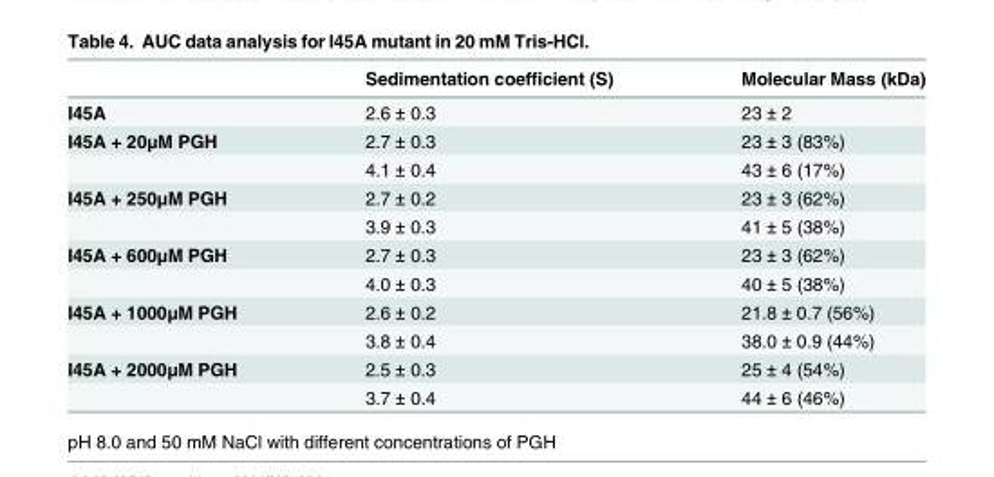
<table><thead><tr><td></td><td>Sedimentation coefficient (S)</td><td>Molecular Mass (kDa)</td></tr></thead><tbody><tr><td>I45A</td><td>2.6 ± 0.3</td><td>23 ± 2</td></tr><tr><td rowspan="2">I45A + 20μM PGH</td><td>2.7 ± 0.3</td><td>23 ± 3 (83%)</td></tr><tr><td>4.1 ± 0.4</td><td>43 ± 6 (17%)</td></tr><tr><td rowspan="2">I45A + 250μM PGH</td><td>2.7 ± 0.2</td><td>23 ± 3 (62%)</td></tr><tr><td>3.9 ± 0.3</td><td>41 ± 5 (38%)</td></tr><tr><td rowspan="2">I45A + 600μM PGH</td><td>2.7 ± 0.3</td><td>23 ± 3 (62%)</td></tr><tr><td>4.0 ± 0.3</td><td>40 ± 5 (38%)</td></tr><tr><td rowspan="2">I45A + 1000μM PGH</td><td>2.6 ± 0.2</td><td>21.8 ± 0.7 (56%)</td></tr><tr><td>3.8 ± 0.4</td><td>38.0 ± 0.9 (44%)</td></tr><tr><td rowspan="2">I45A + 2000μM PGH</td><td>2.5 ± 0.3</td><td>25 ± 4 (54%)</td></tr><tr><td>3.7 ± 0.4</td><td>44 ± 6 (46%)</td></tr></tbody></table>